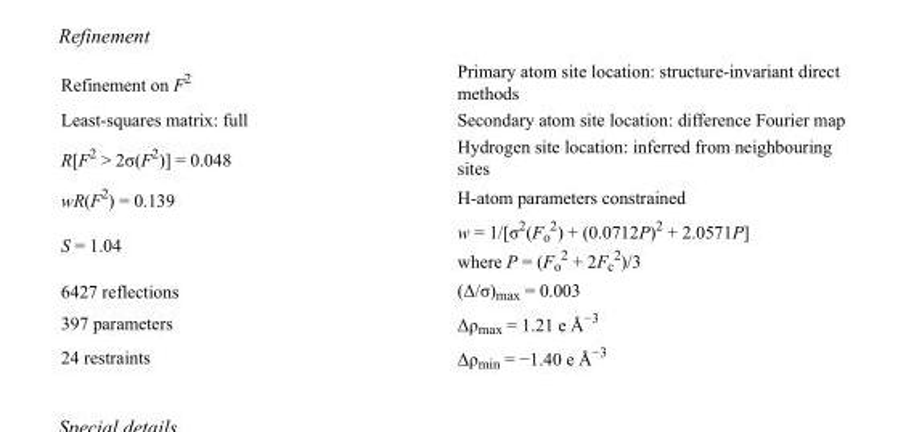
<table><tbody><tr><td>Refinement on F<sup>2</sup></td><td>Primary atom site location: structure-invariant direct methods</td></tr><tr><td>Least-squares matrix: full</td><td>Secondary atom site location: difference Fourier map</td></tr><tr><td>R[F<sup>2</sup> &gt; 2σ(F<sup>2</sup>)] = 0.048</td><td>Hydrogen site location: inferred from neighbouring sites</td></tr><tr><td>wR(F<sup>2</sup>) = 0.139</td><td>H-atom parameters constrained</td></tr><tr><td>S = 1.04</td><td>w = 1/[σ<sup>2</sup>(F<sub>o</sub> <sup>2</sup>) + (0.0712P)<sup>2</sup> + 2.0571P] where P = (F<sub>o</sub> <sup>2</sup> + 2F<sub>c</sub> <sup>2</sup>)/3</td></tr><tr><td>6427 reflections</td><td>(Δ/σ)<sub>max</sub> = 0.003</td></tr><tr><td>397 parameters</td><td>Δρ<sub>max</sub> = 1.21 e Å<sup>−3</sup></td></tr><tr><td>24 restraints</td><td>Δρ<sub>min</sub> = −1.40 e Å<sup>−3</sup></td></tr></tbody></table>